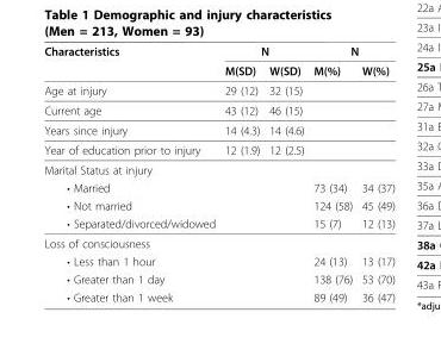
<table><thead><tr><td rowspan="2">Characteristics</td><td colspan="2">N</td><td colspan="2">N</td></tr><tr><td>M(SD)</td><td>W(SD)</td><td>M(%)</td><td>W(%)</td></tr></thead><tbody><tr><td>Age at injury</td><td>29 (12)</td><td>32 (15)</td><td></td><td></td></tr><tr><td>Current age</td><td>43 (12)</td><td>46 (15)</td><td></td><td></td></tr><tr><td>Years since injury</td><td>14 (4.3)</td><td>14 (4.6)</td><td></td><td></td></tr><tr><td>Year of education prior to injury</td><td>12 (1.9)</td><td>12 (2.5)</td><td></td><td></td></tr><tr><td colspan="5">Marital Status at injury</td></tr><tr><td>• Married</td><td></td><td></td><td>73 (34)</td><td>34 (37)</td></tr><tr><td>• Not married</td><td></td><td></td><td>124 (58)</td><td>45 (49)</td></tr><tr><td>• Separated/divorced/widowed</td><td></td><td></td><td>15 (7)</td><td>12 (13)</td></tr><tr><td colspan="5">Loss of consciousness</td></tr><tr><td>• Less than 1 hour</td><td></td><td></td><td>24 (13)</td><td>13 (17)</td></tr><tr><td>• Greater than 1 day</td><td></td><td></td><td>138 (76)</td><td>53 (70)</td></tr><tr><td>• Greater than 1 week</td><td></td><td></td><td>89 (49)</td><td>36 (47)</td></tr></tbody></table>